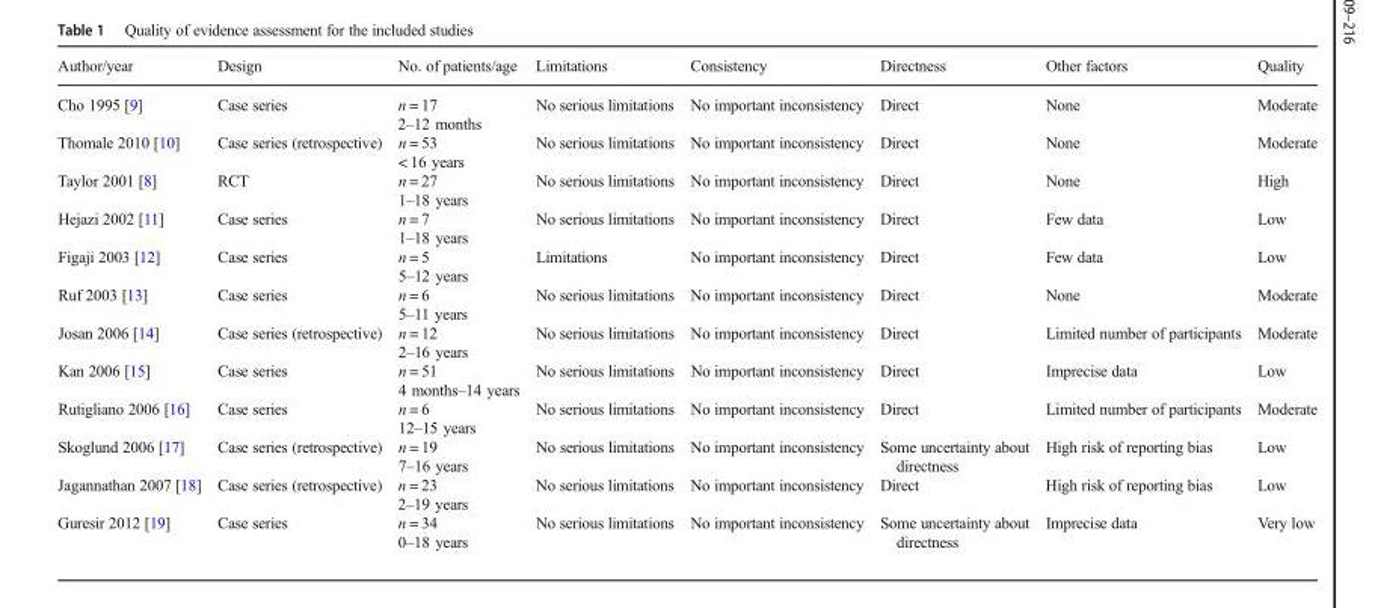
<table><thead><tr><td>Author/year</td><td>Design</td><td>No. of patients/age</td><td>Limitations</td><td>Consistency</td><td>Directness</td><td>Other factors</td><td>Quality</td></tr></thead><tbody><tr><td>Cho 1995 [9]</td><td>Case series</td><td>n = 17 2–12 months</td><td>No serious limitations</td><td>No important inconsistency</td><td>Direct</td><td>None</td><td>Moderate</td></tr><tr><td>Thomale 2010 [10]</td><td>Case series (retrospective)</td><td>n = 53 &lt; 16 years</td><td>No serious limitations</td><td>No important inconsistency</td><td>Direct</td><td>None</td><td>Moderate</td></tr><tr><td>Taylor 2001 [8]</td><td>RCT</td><td>n = 27 1–18 years</td><td>No serious limitations</td><td>No important inconsistency</td><td>Direct</td><td>None</td><td>High</td></tr><tr><td>Hejazi 2002 [11]</td><td>Case series</td><td>n = 7 1–18 years</td><td>No serious limitations</td><td>No important inconsistency</td><td>Direct</td><td>Few data</td><td>Low</td></tr><tr><td>Figaji 2003 [12]</td><td>Case series</td><td>n = 5 5–12 years</td><td>Limitations</td><td>No important inconsistency</td><td>Direct</td><td>Few data</td><td>Low</td></tr><tr><td>Ruf 2003 [13]</td><td>Case series</td><td>n = 6 5–11 years</td><td>No serious limitations</td><td>No important inconsistency</td><td>Direct</td><td>None</td><td>Moderate</td></tr><tr><td>Josan 2006 [14]</td><td>Case series (retrospective)</td><td>n = 12 2–16 years</td><td>No serious limitations</td><td>No important inconsistency</td><td>Direct</td><td>Limited number of participants</td><td>Moderate</td></tr><tr><td>Kan 2006 [15]</td><td>Case series</td><td>n = 51 4 months–14 years</td><td>No serious limitations</td><td>No important inconsistency</td><td>Direct</td><td>Imprecise data</td><td>Low</td></tr><tr><td>Rutigliano 2006 [16]</td><td>Case series</td><td>n = 6 12–15 years</td><td>No serious limitations</td><td>No important inconsistency</td><td>Direct</td><td>Limited number of participants</td><td>Moderate</td></tr><tr><td>Skoglund 2006 [17]</td><td>Case series (retrospective)</td><td>n = 19 7–16 years</td><td>No serious limitations</td><td>No important inconsistency</td><td>Some uncertainty about directness</td><td>High risk of reporting bias</td><td>Low</td></tr><tr><td>Jagannathan 2007 [18]</td><td>Case series (retrospective)</td><td>n = 23 2–19 years</td><td>No serious limitations</td><td>No important inconsistency</td><td>Direct</td><td>High risk of reporting bias</td><td>Low</td></tr><tr><td>Guresir 2012 [19]</td><td>Case series</td><td>n = 34 0–18 years</td><td>No serious limitations</td><td>No important inconsistency</td><td>Some uncertainty about directness</td><td>Imprecise data</td><td>Very low</td></tr></tbody></table>